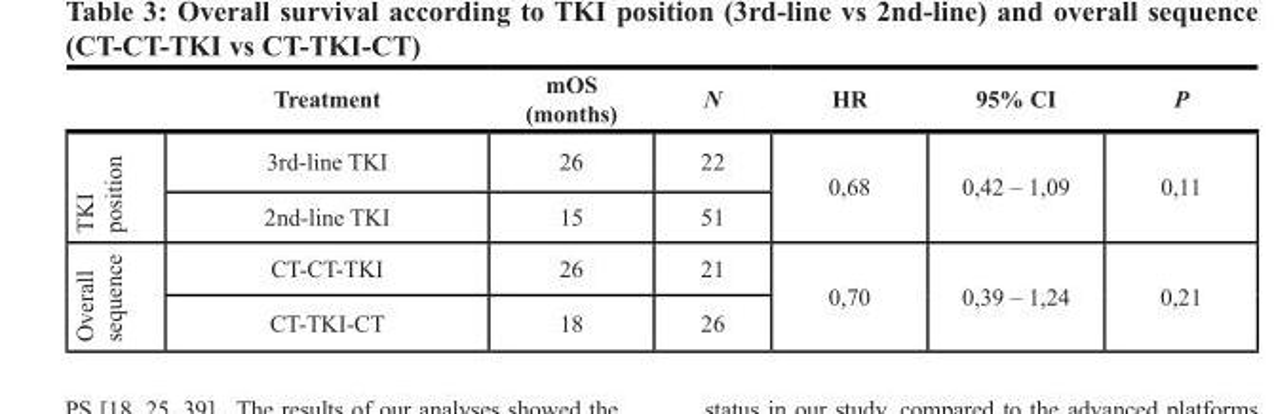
<table><thead><tr><td></td><td>Treatment</td><td>mOS (months)</td><td>N</td><td>HR</td><td>95% CI</td><td>P</td></tr></thead><tbody><tr><td rowspan="2">TKI position</td><td>3rd-line TKI</td><td>26</td><td>22</td><td rowspan="2">0,68</td><td rowspan="2">0,42 – 1,09</td><td rowspan="2">0,11</td></tr><tr><td>2nd-line TKI</td><td>15</td><td>51</td></tr><tr><td rowspan="2">Overall sequence</td><td>CT-CT-TKI</td><td>26</td><td>21</td><td rowspan="2">0,70</td><td rowspan="2">0,39 – 1,24</td><td rowspan="2">0,21</td></tr><tr><td>CT-TKI-CT</td><td>18</td><td>26</td></tr></tbody></table>